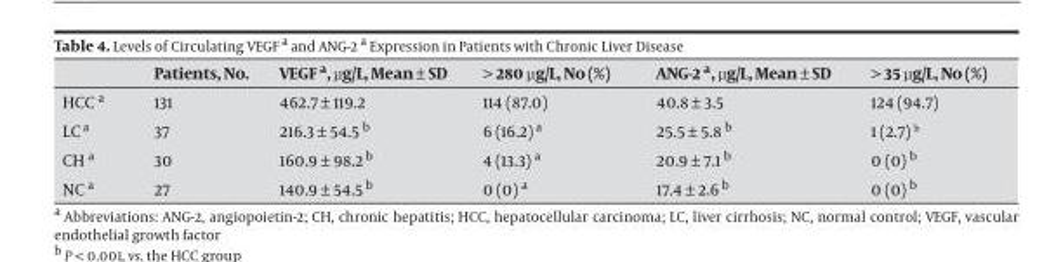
<table><thead><tr><td></td><td>Patients, No.</td><td>VEGF a, μg/L, Mean ± SD</td><td>&gt; 280 μg/L, No (%)</td><td>ANG-2 a, μg/L, Mean ± SD</td><td>&gt; 35 μg/L, No (%)</td></tr></thead><tbody><tr><td>HCC a</td><td>131</td><td>462.7 ± 119.2</td><td>114 (87.0)</td><td>40.8 ± 3.5</td><td>124 (94.7)</td></tr><tr><td>LC a</td><td>37</td><td>216.3 ± 54.5 b</td><td>6 (16.2) a</td><td>25.5 ± 5.8 b</td><td>1 (2.7) b</td></tr><tr><td>CH a</td><td>30</td><td>160.9 ± 98.2 b</td><td>4 (13.3) a</td><td>20.9 ± 7.1 b</td><td>0 (0) b</td></tr><tr><td>NC a</td><td>27</td><td>140.9 ± 54.5 b</td><td>0 (0) a</td><td>17.4 ± 2.6 b</td><td>0 (0) b</td></tr></tbody></table>